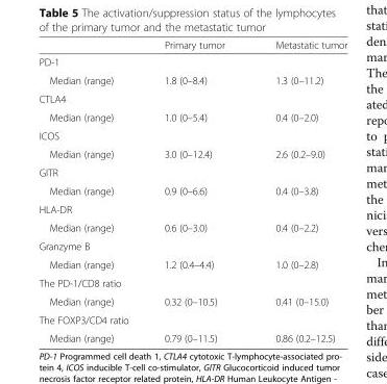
<table><thead><tr><td></td><td>Primary tumor</td><td>Metastatic tumor</td></tr></thead><tbody><tr><td colspan="3">PD-1</td></tr><tr><td>Median (range)</td><td>1.8 (0–8.4)</td><td>1.3 (0–11.2)</td></tr><tr><td colspan="3">CTLA4</td></tr><tr><td>Median (range)</td><td>1.0 (0–5.4)</td><td>0.4 (0–2.0)</td></tr><tr><td colspan="3">ICOS</td></tr><tr><td>Median (range)</td><td>3.0 (0–12.4)</td><td>2.6 (0.2–9.0)</td></tr><tr><td colspan="3">GITR</td></tr><tr><td>Median (range)</td><td>0.9 (0–6.6)</td><td>0.4 (0–3.8)</td></tr><tr><td colspan="3">HLA-DR</td></tr><tr><td>Median (range)</td><td>0.6 (0–3.0)</td><td>0.4 (0–2.2)</td></tr><tr><td colspan="3">Granzyme B</td></tr><tr><td>Median (range)</td><td>1.2 (0.4–4.4)</td><td>1.0 (0–2.8)</td></tr><tr><td colspan="3">The PD-1/CD8 ratio</td></tr><tr><td>Median (range)</td><td>0.32 (0–10.5)</td><td>0.41 (0–15.0)</td></tr><tr><td colspan="3">The FOXP3/CD4 ratio</td></tr><tr><td>Median (range)</td><td>0.79 (0–11.5)</td><td>0.86 (0.2–12.5)</td></tr></tbody></table>